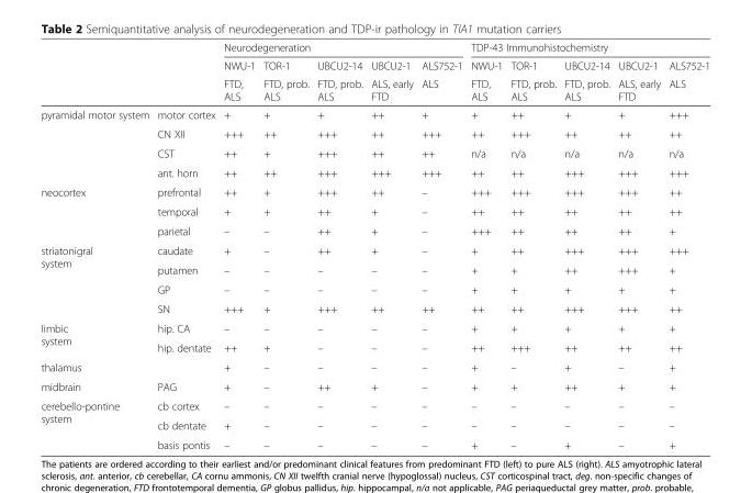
<table><thead><tr><td rowspan="3"></td><td rowspan="3"></td><td colspan="5">Neurodegeneration</td><td colspan="5">TDP-43 Immunohistochemistry</td></tr><tr><td rowspan="2">NWU-1 FTD, ALS</td><td rowspan="2">TOR-1 FTD, prob. ALS</td><td rowspan="2">UBCU2-14 FTD, prob. ALS</td><td rowspan="2">UBCU2-1 ALS, early FTD</td><td rowspan="2">ALS752-1 ALS</td><td rowspan="2">NWU-1 FTD, ALS</td><td rowspan="2">TOR-1 FTD, prob. ALS</td><td rowspan="2">UBCU2-14 FTD, prob. ALS</td><td rowspan="2">UBCU2-1 ALS, early FTD</td><td rowspan="2">ALS752-1 ALS</td></tr><tr></tr></thead><tbody><tr><td rowspan="4">pyramidal motor system</td><td>motor cortex</td><td>+</td><td>+</td><td>+</td><td>++</td><td>+</td><td>+</td><td>++</td><td>+</td><td>+</td><td>+++</td></tr><tr><td>CN XII</td><td>+++</td><td>++</td><td>+++</td><td>++</td><td>+++</td><td>++</td><td>+++</td><td>++</td><td>++</td><td>++</td></tr><tr><td>CST</td><td>++</td><td>+</td><td>+++</td><td>++</td><td>++</td><td>n/a</td><td>n/a</td><td>n/a</td><td>n/a</td><td>n/a</td></tr><tr><td>ant. horn</td><td>++</td><td>++</td><td>+++</td><td>+++</td><td>+++</td><td>++</td><td>++</td><td>+++</td><td>+++</td><td>+++</td></tr><tr><td rowspan="3">neocortex</td><td>prefrontal</td><td>++</td><td>+</td><td>+++</td><td>++</td><td>–</td><td>+++</td><td>+++</td><td>+++</td><td>+++</td><td>++</td></tr><tr><td>temporal</td><td>+</td><td>+</td><td>++</td><td>+</td><td>–</td><td>++</td><td>++</td><td>++</td><td>++</td><td>++</td></tr><tr><td>parietal</td><td>–</td><td>–</td><td>++</td><td>+</td><td>–</td><td>+++</td><td>++</td><td>++</td><td>++</td><td>+</td></tr><tr><td rowspan="4">striatonigral system</td><td>caudate</td><td>+</td><td>–</td><td>++</td><td>+</td><td>–</td><td>+</td><td>++</td><td>+++</td><td>+++</td><td>+++</td></tr><tr><td>putamen</td><td>–</td><td>–</td><td>–</td><td>–</td><td>–</td><td>+</td><td>+</td><td>++</td><td>+++</td><td>+</td></tr><tr><td>GP</td><td>–</td><td>–</td><td>–</td><td>–</td><td>–</td><td>+</td><td>+</td><td>+</td><td>+</td><td>+</td></tr><tr><td>SN</td><td>+++</td><td>+</td><td>+++</td><td>++</td><td>++</td><td>++</td><td>++</td><td>+++</td><td>+++</td><td>++</td></tr><tr><td rowspan="2">limbic system</td><td>hip. CA</td><td>–</td><td>–</td><td>–</td><td>–</td><td>–</td><td>+</td><td>+</td><td>+</td><td>+</td><td>+</td></tr><tr><td>hip. dentate</td><td>++</td><td>+</td><td>–</td><td>–</td><td>–</td><td>++</td><td>+++</td><td>++</td><td>++</td><td>++</td></tr><tr><td>thalamus</td><td></td><td>+</td><td>–</td><td>–</td><td>–</td><td>–</td><td>+</td><td>–</td><td>+</td><td>–</td><td>+</td></tr><tr><td>midbrain</td><td>PAG</td><td>+</td><td>–</td><td>++</td><td>+</td><td>–</td><td>+</td><td>+</td><td>++</td><td>+</td><td>+</td></tr><tr><td rowspan="3">cerebello-pontine system</td><td>cb cortex</td><td>–</td><td>–</td><td>–</td><td>–</td><td>–</td><td>–</td><td>–</td><td>–</td><td>–</td><td>–</td></tr><tr><td>cb dentate</td><td>+</td><td>–</td><td>–</td><td>–</td><td>–</td><td>–</td><td>–</td><td>–</td><td>–</td><td>–</td></tr><tr><td>basis pontis</td><td>–</td><td>–</td><td>–</td><td>–</td><td>–</td><td>+</td><td>–</td><td>+</td><td>–</td><td>+</td></tr></tbody></table>